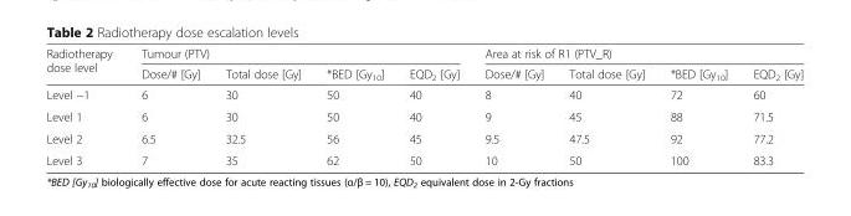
<table><thead><tr><td rowspan="2">Radiotherapy dose level</td><td colspan="4">Tumour (PTV)</td><td colspan="4">Area at risk of R1 (PTV_R)</td></tr><tr><td>Dose/# [Gy]</td><td>Total dose [Gy]</td><td>*BED [Gy<sub>10</sub>]</td><td>EQD<sub>2</sub> [Gy]</td><td>Dose/# [Gy]</td><td>Total dose [Gy]</td><td>*BED [Gy<sub>10</sub>]</td><td>EQD<sub>2</sub> [Gy]</td></tr></thead><tbody><tr><td>Level −1</td><td>6</td><td>30</td><td>50</td><td>40</td><td>8</td><td>40</td><td>72</td><td>60</td></tr><tr><td>Level 1</td><td>6</td><td>30</td><td>50</td><td>40</td><td>9</td><td>45</td><td>88</td><td>71.5</td></tr><tr><td>Level 2</td><td>6.5</td><td>32.5</td><td>56</td><td>45</td><td>9.5</td><td>47.5</td><td>92</td><td>77.2</td></tr><tr><td>Level 3</td><td>7</td><td>35</td><td>62</td><td>50</td><td>10</td><td>50</td><td>100</td><td>83.3</td></tr></tbody></table>